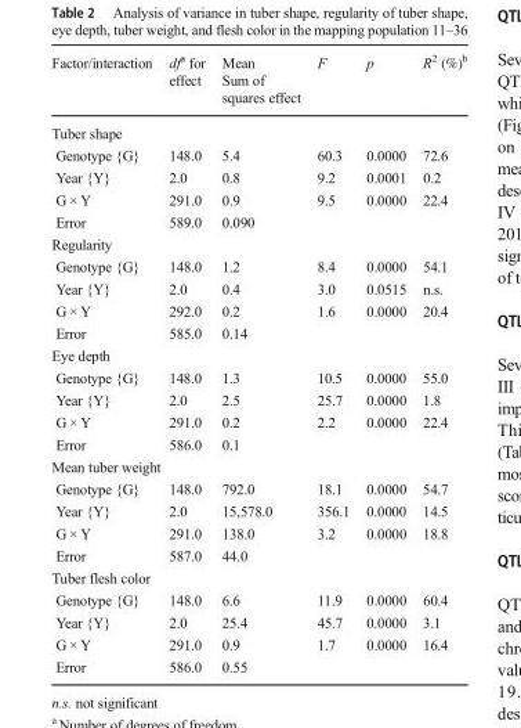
<table><thead><tr><td>Factor/interaction</td><td>df<sup>a</sup> for effect</td><td>Mean Sum of squares effect</td><td>F</td><td>p</td><td>R<sup>2</sup> (%)<sup>b</sup></td></tr></thead><tbody><tr><td colspan="6">Tuber shape</td></tr><tr><td>Genotype {G}</td><td>148.0</td><td>5.4</td><td>60.3</td><td>0.0000</td><td>72.6</td></tr><tr><td>Year {Y}</td><td>2.0</td><td>0.8</td><td>9.2</td><td>0.0001</td><td>0.2</td></tr><tr><td>G × Y</td><td>291.0</td><td>0.9</td><td>9.5</td><td>0.0000</td><td>22.4</td></tr><tr><td>Error</td><td>589.0</td><td>0.090</td><td></td><td></td><td></td></tr><tr><td colspan="6">Regularity</td></tr><tr><td>Genotype {G}</td><td>148.0</td><td>1.2</td><td>8.4</td><td>0.0000</td><td>54.1</td></tr><tr><td>Year {Y}</td><td>2.0</td><td>0.4</td><td>3.0</td><td>0.0515</td><td>n.s.</td></tr><tr><td>G × Y</td><td>292.0</td><td>0.2</td><td>1.6</td><td>0.0000</td><td>20.4</td></tr><tr><td>Error</td><td>585.0</td><td>0.14</td><td></td><td></td><td></td></tr><tr><td colspan="6">Eye depth</td></tr><tr><td>Genotype {G}</td><td>148.0</td><td>1.3</td><td>10.5</td><td>0.0000</td><td>55.0</td></tr><tr><td>Year {Y}</td><td>2.0</td><td>2.5</td><td>25.7</td><td>0.0000</td><td>1.8</td></tr><tr><td>G × Y</td><td>291.0</td><td>0.2</td><td>2.2</td><td>0.0000</td><td>22.4</td></tr><tr><td>Error</td><td>586.0</td><td>0.1</td><td></td><td></td><td></td></tr><tr><td colspan="6">Mean tuber weight</td></tr><tr><td>Genotype {G}</td><td>148.0</td><td>792.0</td><td>18.1</td><td>0.0000</td><td>54.7</td></tr><tr><td>Year {Y}</td><td>2.0</td><td>15,578.0</td><td>356.1</td><td>0.0000</td><td>14.5</td></tr><tr><td>G × Y</td><td>291.0</td><td>138.0</td><td>3.2</td><td>0.0000</td><td>18.8</td></tr><tr><td>Error</td><td>587.0</td><td>44.0</td><td></td><td></td><td></td></tr><tr><td colspan="6">Tuber flesh color</td></tr><tr><td>Genotype {G}</td><td>148.0</td><td>6.6</td><td>11.9</td><td>0.0000</td><td>60.4</td></tr><tr><td>Year {Y}</td><td>2.0</td><td>25.4</td><td>45.7</td><td>0.0000</td><td>3.1</td></tr><tr><td>G × Y</td><td>291.0</td><td>0.9</td><td>1.7</td><td>0.0000</td><td>16.4</td></tr><tr><td>Error</td><td>586.0</td><td>0.55</td><td></td><td></td><td></td></tr></tbody></table>